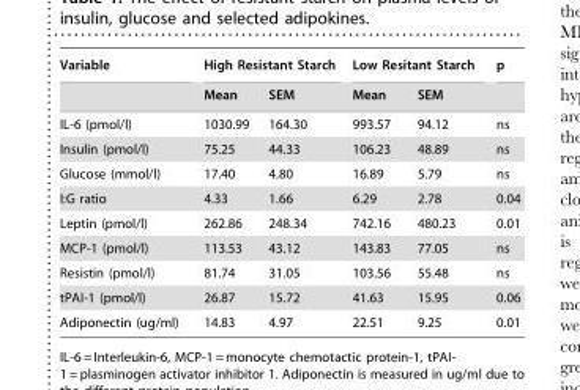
<table><thead><tr><td rowspan="2">Variable</td><td colspan="2">High Resistant Starch</td><td colspan="2">Low Resitant Starch</td><td rowspan="2">p</td></tr><tr><td>Mean</td><td>SEM</td><td>Mean</td><td>SEM</td></tr></thead><tbody><tr><td>IL-6 (pmol/l)</td><td>1030.99</td><td>164.30</td><td>993.57</td><td>94.12</td><td>ns</td></tr><tr><td>Insulin (pmol/l)</td><td>75.25</td><td>44.33</td><td>106.23</td><td>48.89</td><td>ns</td></tr><tr><td>Glucose (mmol/l)</td><td>17.40</td><td>4.80</td><td>16.89</td><td>5.79</td><td>ns</td></tr><tr><td>I:G ratio</td><td>4.33</td><td>1.66</td><td>6.29</td><td>2.78</td><td>0.04</td></tr><tr><td>Leptin (pmol/l)</td><td>262.86</td><td>248.34</td><td>742.16</td><td>480.23</td><td>0.01</td></tr><tr><td>MCP-1 (pmol/l)</td><td>113.53</td><td>43.12</td><td>143.83</td><td>77.05</td><td>ns</td></tr><tr><td>Resistin (pmol/l)</td><td>81.74</td><td>31.05</td><td>103.56</td><td>55.48</td><td>ns</td></tr><tr><td>tPAI-1 (pmol/l)</td><td>26.87</td><td>15.72</td><td>41.63</td><td>15.95</td><td>0.06</td></tr><tr><td>Adiponectin (ug/ml)</td><td>14.83</td><td>4.97</td><td>22.51</td><td>9.25</td><td>0.01</td></tr></tbody></table>